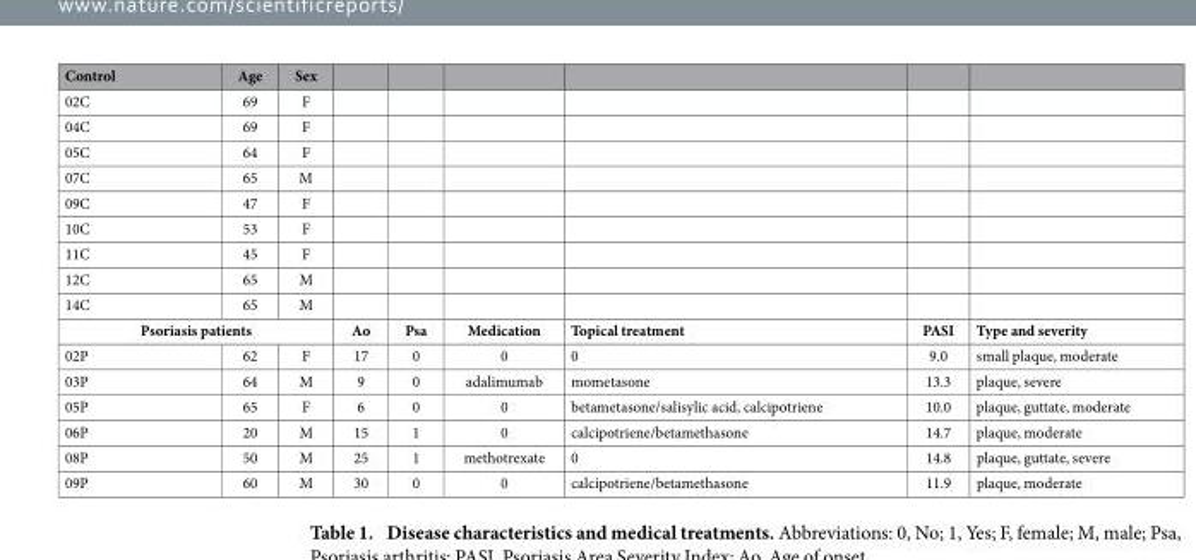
<table><thead><tr><td>Control</td><td>Age</td><td>Sex</td><td></td><td></td><td></td><td></td><td></td><td></td></tr></thead><tbody><tr><td>02C</td><td>69</td><td>F</td><td></td><td></td><td></td><td></td><td></td><td></td></tr><tr><td>04C</td><td>69</td><td>F</td><td></td><td></td><td></td><td></td><td></td><td></td></tr><tr><td>05C</td><td>64</td><td>F</td><td></td><td></td><td></td><td></td><td></td><td></td></tr><tr><td>07C</td><td>65</td><td>M</td><td></td><td></td><td></td><td></td><td></td><td></td></tr><tr><td>09C</td><td>47</td><td>F</td><td></td><td></td><td></td><td></td><td></td><td></td></tr><tr><td>10C</td><td>53</td><td>F</td><td></td><td></td><td></td><td></td><td></td><td></td></tr><tr><td>11C</td><td>45</td><td>F</td><td></td><td></td><td></td><td></td><td></td><td></td></tr><tr><td>12C</td><td>65</td><td>M</td><td></td><td></td><td></td><td></td><td></td><td></td></tr><tr><td>14C</td><td>65</td><td>M</td><td></td><td></td><td></td><td></td><td></td><td></td></tr><tr><td colspan="3">Psoriasis patients</td><td>Ao</td><td>Psa</td><td>Medication</td><td>Topical treatment</td><td>PASI</td><td>Type and severity</td></tr><tr><td>02P</td><td>62</td><td>F</td><td>17</td><td>0</td><td>0</td><td>0</td><td>9.0</td><td>small plaque, moderate</td></tr><tr><td>03P</td><td>64</td><td>M</td><td>9</td><td>0</td><td>adalimumab</td><td>mometasone</td><td>13.3</td><td>plaque, severe</td></tr><tr><td>05P</td><td>65</td><td>F</td><td>6</td><td>0</td><td>0</td><td>betametasone/salisylic acid, calcipotriene</td><td>10.0</td><td>plaque, guttate, moderate</td></tr><tr><td>06P</td><td>20</td><td>M</td><td>15</td><td>1</td><td>0</td><td>calcipotriene/betamethasone</td><td>14.7</td><td>plaque, moderate</td></tr><tr><td>08P</td><td>50</td><td>M</td><td>25</td><td>1</td><td>methotrexate</td><td>0</td><td>14.8</td><td>plaque, guttate, severe</td></tr><tr><td>09P</td><td>60</td><td>M</td><td>30</td><td>0</td><td>0</td><td>calcipotriene/betamethasone</td><td>11.9</td><td>plaque, moderate</td></tr></tbody></table>